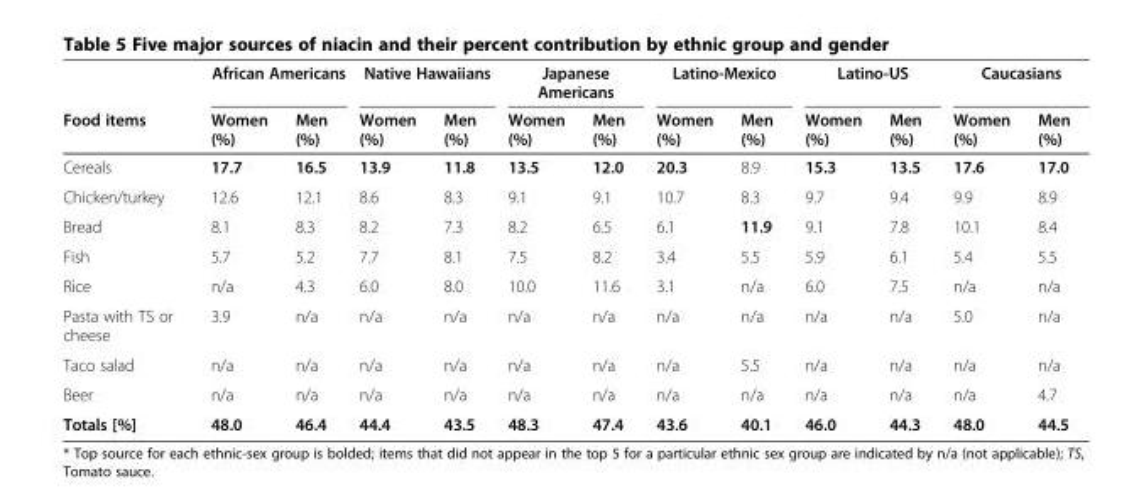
<table><thead><tr><td rowspan="2">Food items</td><td colspan="2">African Americans</td><td colspan="2">Native Hawaiians</td><td colspan="2">Japanese Americans</td><td colspan="2">Latino-Mexico</td><td colspan="2">Latino-US</td><td colspan="2">Caucasians</td></tr><tr><td>Women (%)</td><td>Men (%)</td><td>Women (%)</td><td>Men (%)</td><td>Women (%)</td><td>Men (%)</td><td>Women (%)</td><td>Men (%)</td><td>Women (%)</td><td>Men (%)</td><td>Women (%)</td><td>Men (%)</td></tr></thead><tbody><tr><td>Cereals</td><td>17.7</td><td>16.5</td><td>13.9</td><td>11.8</td><td>13.5</td><td>12.0</td><td>20.3</td><td>8.9</td><td>15.3</td><td>13.5</td><td>17.6</td><td>17.0</td></tr><tr><td>Chicken/turkey</td><td>12.6</td><td>12.1</td><td>8.6</td><td>8.3</td><td>9.1</td><td>9.1</td><td>10.7</td><td>8.3</td><td>9.7</td><td>9.4</td><td>9.9</td><td>8.9</td></tr><tr><td>Bread</td><td>8.1</td><td>8.3</td><td>8.2</td><td>7.3</td><td>8.2</td><td>6.5</td><td>6.1</td><td>11.9</td><td>9.1</td><td>7.8</td><td>10.1</td><td>8.4</td></tr><tr><td>Fish</td><td>5.7</td><td>5.2</td><td>7.7</td><td>8.1</td><td>7.5</td><td>8.2</td><td>3.4</td><td>5.5</td><td>5.9</td><td>6.1</td><td>5.4</td><td>5.5</td></tr><tr><td>Rice</td><td>n/a</td><td>4.3</td><td>6.0</td><td>8.0</td><td>10.0</td><td>11.6</td><td>3.1</td><td>n/a</td><td>6.0</td><td>7.5</td><td>n/a</td><td>n/a</td></tr><tr><td>Pasta with TS or cheese</td><td>3.9</td><td>n/a</td><td>n/a</td><td>n/a</td><td>n/a</td><td>n/a</td><td>n/a</td><td>n/a</td><td>n/a</td><td>n/a</td><td>5.0</td><td>n/a</td></tr><tr><td>Taco salad</td><td>n/a</td><td>n/a</td><td>n/a</td><td>n/a</td><td>n/a</td><td>n/a</td><td>n/a</td><td>5.5</td><td>n/a</td><td>n/a</td><td>n/a</td><td>n/a</td></tr><tr><td>Beer</td><td>n/a</td><td>n/a</td><td>n/a</td><td>n/a</td><td>n/a</td><td>n/a</td><td>n/a</td><td>n/a</td><td>n/a</td><td>n/a</td><td>n/a</td><td>4.7</td></tr><tr><td>Totals [%]</td><td>48.0</td><td>46.4</td><td>44.4</td><td>43.5</td><td>48.3</td><td>47.4</td><td>43.6</td><td>40.1</td><td>46.0</td><td>44.3</td><td>48.0</td><td>44.5</td></tr></tbody></table>